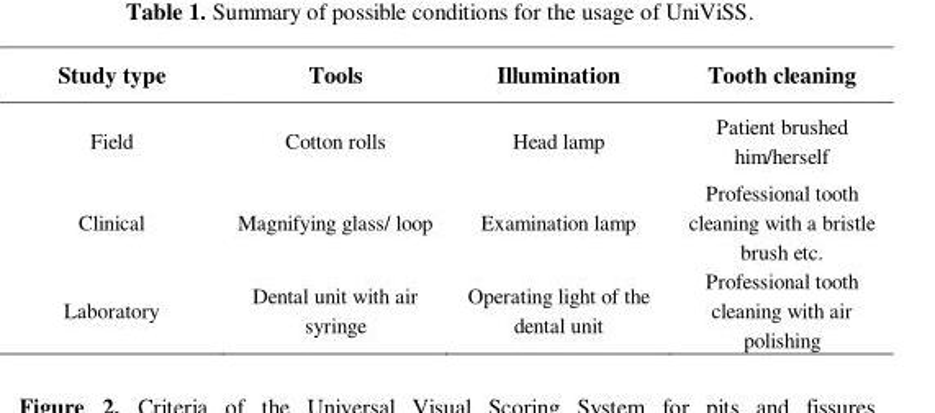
<table><thead><tr><td>Study type</td><td>Tools</td><td>Illumination</td><td>Tooth cleaning</td></tr></thead><tbody><tr><td>Field</td><td>Cotton rolls</td><td>Head lamp</td><td>Patient brushed him/herself</td></tr><tr><td>Clinical</td><td>Magnifying glass/ loop</td><td>Examination lamp</td><td>Professional tooth cleaning with a bristle brush etc.</td></tr><tr><td>Laboratory</td><td>Dental unit with air syringe</td><td>Operating light of the dental unit</td><td>Professional tooth cleaning with air polishing</td></tr></tbody></table>